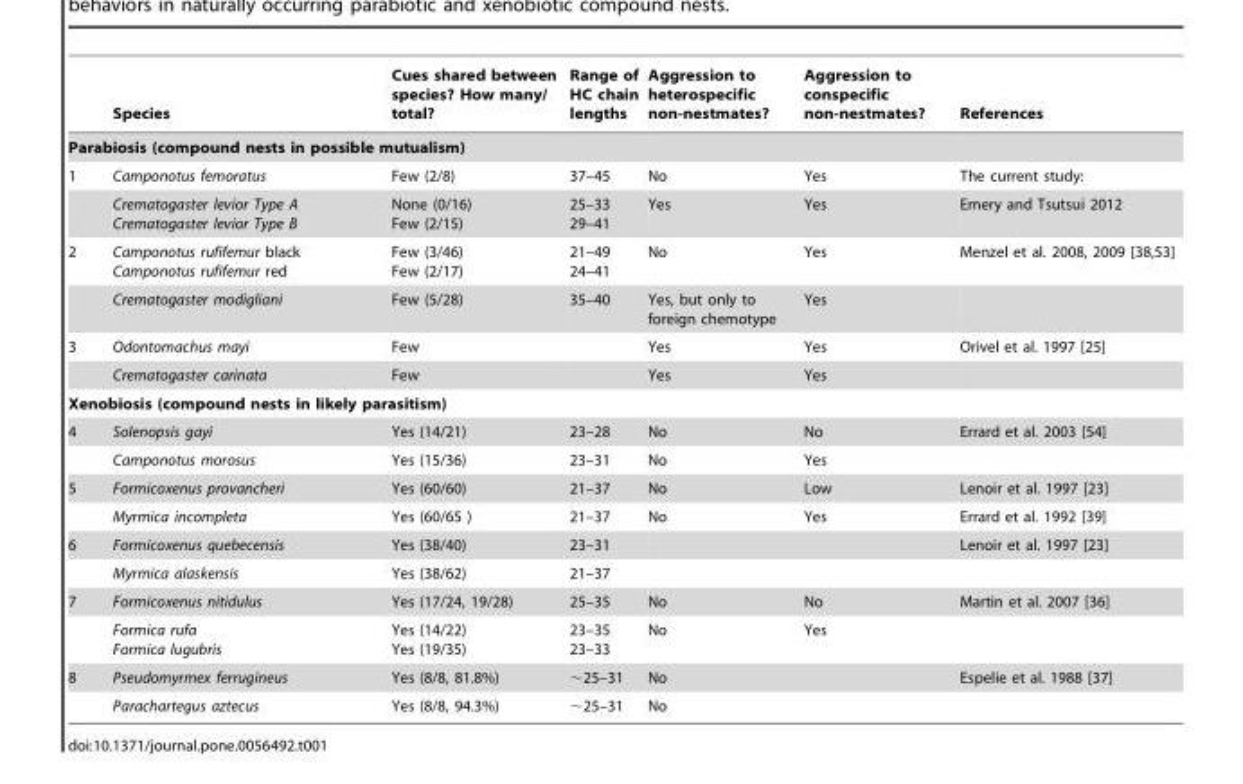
<table><thead><tr><td></td><td>Species</td><td>Cues shared between species? How many/ total?</td><td>Range of HC chain lengths</td><td>Aggression to heterospecific non-nestmates?</td><td>Aggression to conspecific non-nestmates?</td><td>References</td></tr></thead><tbody><tr><td colspan="7">Parabiosis (compound nests in possible mutualism)</td></tr><tr><td rowspan="2">1</td><td>Camponotus femoratus</td><td>Few (2/8)</td><td>37–45</td><td>No</td><td>Yes</td><td>The current study:</td></tr><tr><td>Crematogaster levior Type A Crematogaster levior Type B</td><td>None (0/16) Few (2/15)</td><td>25–33 29–41</td><td>Yes</td><td>Yes</td><td>Emery and Tsutsui 2012</td></tr><tr><td rowspan="2">2</td><td>Camponotus rufifemur black Camponotus rufifemur red</td><td>Few (3/46) Few (2/17)</td><td>21–49 24–41</td><td>No</td><td>Yes</td><td>Menzel et al. 2008, 2009 [38,53]</td></tr><tr><td>Crematogaster modigliani</td><td>Few (5/28)</td><td>35–40</td><td>Yes, but only to foreign chemotype</td><td>Yes</td><td></td></tr><tr><td rowspan="2">3</td><td>Odontomachus mayi</td><td>Few</td><td></td><td>Yes</td><td>Yes</td><td>Orivel et al. 1997 [25]</td></tr><tr><td>Crematogaster carinata</td><td>Few</td><td></td><td>Yes</td><td>Yes</td><td></td></tr><tr><td colspan="7">Xenobiosis (compound nests in likely parasitism)</td></tr><tr><td rowspan="2">4</td><td>Solenopsis gayi</td><td>Yes (14/21)</td><td>23–28</td><td>No</td><td>No</td><td>Errard et al. 2003 [54]</td></tr><tr><td>Camponotus morosus</td><td>Yes (15/36)</td><td>23–31</td><td>No</td><td>Yes</td><td></td></tr><tr><td rowspan="2">5</td><td>Formicoxenus provancheri</td><td>Yes (60/60)</td><td>21–37</td><td>No</td><td>Low</td><td>Lenoir et al. 1997 [23]</td></tr><tr><td>Myrmica incompleta</td><td>Yes (60/65 )</td><td>21–37</td><td>No</td><td>Yes</td><td>Errard et al. 1992 [39]</td></tr><tr><td rowspan="2">6</td><td>Formicoxenus quebecensis</td><td>Yes (38/40)</td><td>23–31</td><td></td><td></td><td>Lenoir et al. 1997 [23]</td></tr><tr><td>Myrmica alaskensis</td><td>Yes (38/62)</td><td>21–37</td><td></td><td></td><td></td></tr><tr><td rowspan="2">7</td><td>Formicoxenus nitidulus</td><td>Yes (17/24, 19/28)</td><td>25–35</td><td>No</td><td>No</td><td>Martin et al. 2007 [36]</td></tr><tr><td>Formica rufa Formica lugubris</td><td>Yes (14/22) Yes (19/35)</td><td>23–35 23–33</td><td>No</td><td>Yes</td><td></td></tr><tr><td rowspan="2">8</td><td>Pseudomyrmex ferrugineus</td><td>Yes (8/8, 81.8%)</td><td>∼25–31</td><td>No</td><td></td><td>Espelie et al. 1988 [37]</td></tr><tr><td>Parachartegus aztecus</td><td>Yes (8/8, 94.3%)</td><td>∼25–31</td><td>No</td><td></td><td></td></tr></tbody></table>